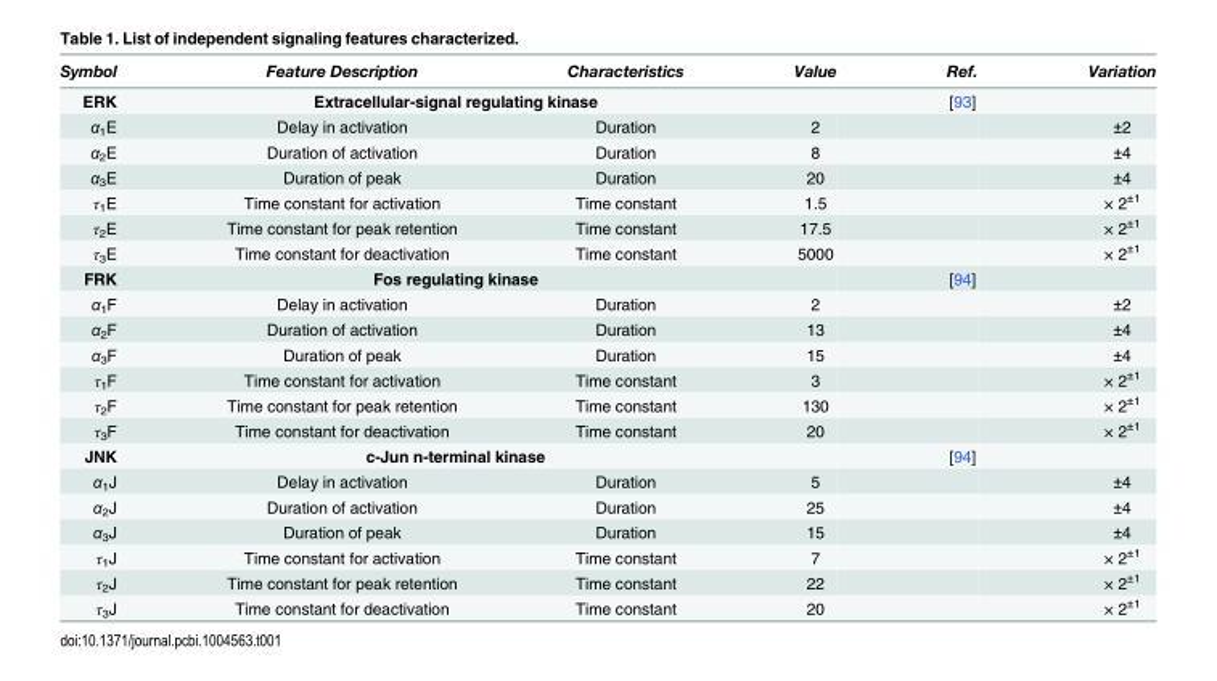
<table><thead><tr><td>Symbol</td><td>Feature Description</td><td>Characteristics</td><td>Value</td><td>Ref.</td><td>Variation</td></tr></thead><tbody><tr><td>ERK</td><td colspan="2">Extracellular-signal regulating kinase</td><td></td><td>[93]</td><td></td></tr><tr><td>α<sub>1</sub>E</td><td>Delay in activation</td><td>Duration</td><td>2</td><td></td><td>±2</td></tr><tr><td>α<sub>2</sub>E</td><td>Duration of activation</td><td>Duration</td><td>8</td><td></td><td>±4</td></tr><tr><td>α<sub>3</sub>E</td><td>Duration of peak</td><td>Duration</td><td>20</td><td></td><td>±4</td></tr><tr><td>τ<sub>1</sub>E</td><td>Time constant for activation</td><td>Time constant</td><td>1.5</td><td></td><td>× 2<sup>±1</sup></td></tr><tr><td>τ<sub>2</sub>E</td><td>Time constant for peak retention</td><td>Time constant</td><td>17.5</td><td></td><td>× 2<sup>±1</sup></td></tr><tr><td>τ<sub>3</sub>E</td><td>Time constant for deactivation</td><td>Time constant</td><td>5000</td><td></td><td>× 2<sup>±1</sup></td></tr><tr><td>FRK</td><td colspan="2">Fos regulating kinase</td><td></td><td>[94]</td><td></td></tr><tr><td>α<sub>1</sub>F</td><td>Delay in activation</td><td>Duration</td><td>2</td><td></td><td>±2</td></tr><tr><td>α<sub>2</sub>F</td><td>Duration of activation</td><td>Duration</td><td>13</td><td></td><td>±4</td></tr><tr><td>α<sub>3</sub>F</td><td>Duration of peak</td><td>Duration</td><td>15</td><td></td><td>±4</td></tr><tr><td>τ<sub>1</sub>F</td><td>Time constant for activation</td><td>Time constant</td><td>3</td><td></td><td>× 2<sup>±1</sup></td></tr><tr><td>τ<sub>2</sub>F</td><td>Time constant for peak retention</td><td>Time constant</td><td>130</td><td></td><td>× 2<sup>±1</sup></td></tr><tr><td>τ<sub>3</sub>F</td><td>Time constant for deactivation</td><td>Time constant</td><td>20</td><td></td><td>× 2<sup>±1</sup></td></tr><tr><td>JNK</td><td colspan="2">c-Jun n-terminal kinase</td><td></td><td>[94]</td><td></td></tr><tr><td>α<sub>1</sub>J</td><td>Delay in activation</td><td>Duration</td><td>5</td><td></td><td>±4</td></tr><tr><td>α<sub>2</sub>J</td><td>Duration of activation</td><td>Duration</td><td>25</td><td></td><td>±4</td></tr><tr><td>α<sub>3</sub>J</td><td>Duration of peak</td><td>Duration</td><td>15</td><td></td><td>±4</td></tr><tr><td>τ<sub>1</sub>J</td><td>Time constant for activation</td><td>Time constant</td><td>7</td><td></td><td>× 2<sup>±1</sup></td></tr><tr><td>τ<sub>2</sub>J</td><td>Time constant for peak retention</td><td>Time constant</td><td>22</td><td></td><td>× 2<sup>±1</sup></td></tr><tr><td>τ<sub>3</sub>J</td><td>Time constant for deactivation</td><td>Time constant</td><td>20</td><td></td><td>× 2<sup>±1</sup></td></tr></tbody></table>